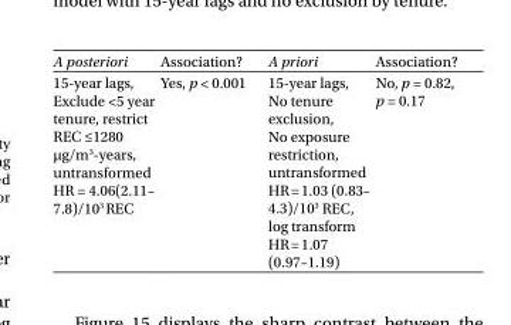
<table><thead><tr><td>A posteriori</td><td>Association?</td><td>A priori</td><td>Association?</td></tr></thead><tbody><tr><td>15-year lags, Exclude &lt;5 year tenure, restrict REC ≤1280 µg/m<sup>3</sup>-years, untransformed HR = 4.06(2.11– 7.8)/10<sup>3</sup> REC</td><td>Yes, p &lt; 0.001</td><td>15-year lags, No tenure exclusion, No exposure restriction, untransformed HR = 1.03 (0.83– 4.3)/10<sup>3</sup> REC, log transform HR = 1.07 (0.97–1.19)</td><td>No, p = 0.82, p = 0.17</td></tr></tbody></table>